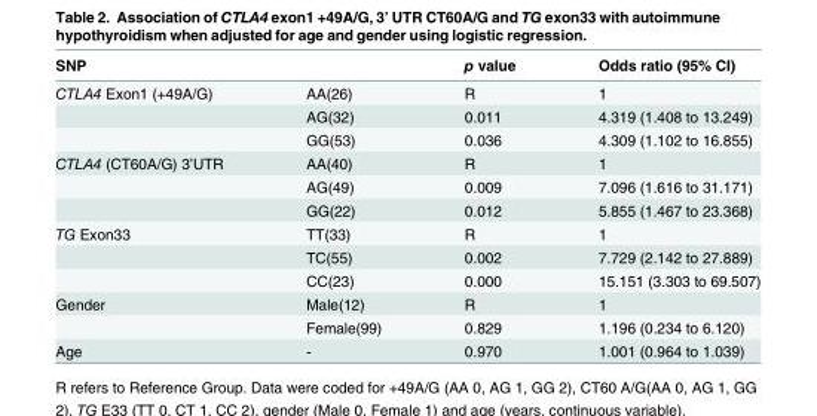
<table><thead><tr><td colspan="2">SNP</td><td rowspan="2">p value R</td><td rowspan="2">Odds ratio (95% CI) 1</td></tr><tr><td>CTLA4 Exon1 (+49A/G)</td><td>AA(26)</td></tr></thead><tbody><tr><td></td><td>AG(32)</td><td>0.011</td><td>4.319 (1.408 to 13.249)</td></tr><tr><td></td><td>GG(53)</td><td>0.036</td><td>4.309 (1.102 to 16.855)</td></tr><tr><td rowspan="3">CTLA4 (CT60A/G) 3’UTR</td><td>AA(40)</td><td>R</td><td>1</td></tr><tr><td>AG(49)</td><td>0.009</td><td>7.096 (1.616 to 31.171)</td></tr><tr><td>GG(22)</td><td>0.012</td><td>5.855 (1.467 to 23.368)</td></tr><tr><td rowspan="3">TG Exon33</td><td>TT(33)</td><td>R</td><td>1</td></tr><tr><td>TC(55)</td><td>0.002</td><td>7.729 (2.142 to 27.889)</td></tr><tr><td>CC(23)</td><td>0.000</td><td>15.151 (3.303 to 69.507)</td></tr><tr><td rowspan="2">Gender</td><td>Male(12)</td><td>R</td><td>1</td></tr><tr><td>Female(99)</td><td>0.829</td><td>1.196 (0.234 to 6.120)</td></tr><tr><td>Age</td><td>-</td><td>0.970</td><td>1.001 (0.964 to 1.039)</td></tr></tbody></table>